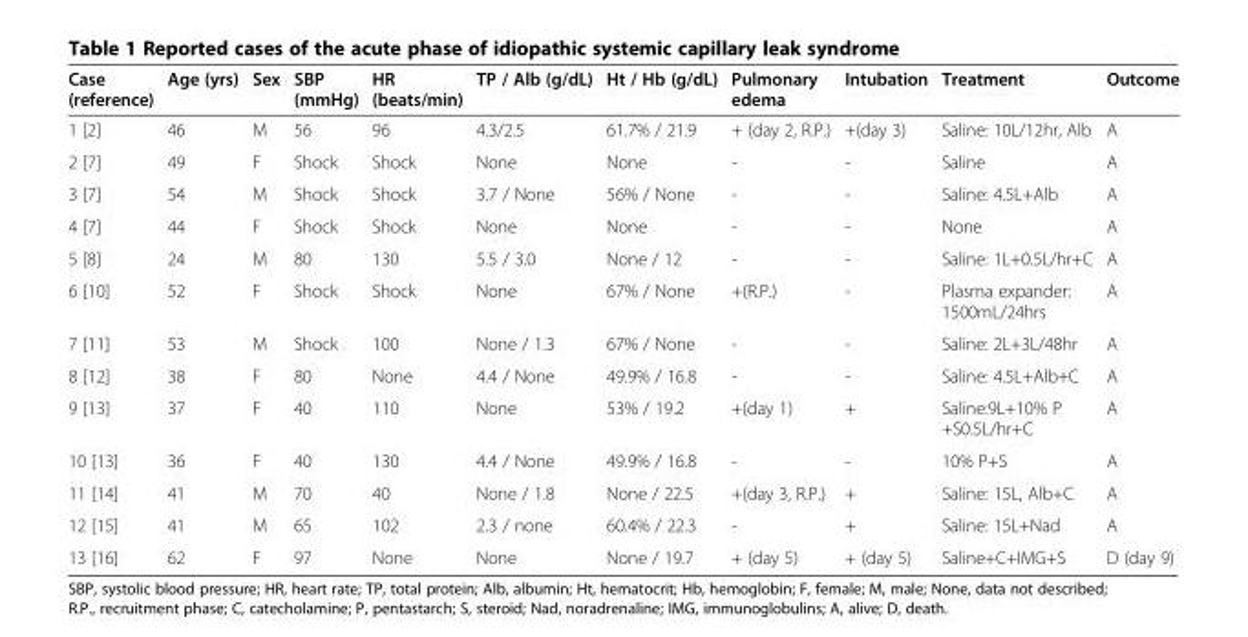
<table><thead><tr><td>Case (reference)</td><td>Age (yrs)</td><td>Sex</td><td>SBP (mmHg)</td><td>HR (beats/min)</td><td>TP / Alb (g/dL)</td><td>Ht / Hb (g/dL)</td><td>Pulmonary edema</td><td>Intubation</td><td>Treatment</td><td>Outcome</td></tr></thead><tbody><tr><td>1 [2]</td><td>46</td><td>M</td><td>56</td><td>96</td><td>4.3/2.5</td><td>61.7% / 21.9</td><td>+ (day 2, R.P.)</td><td>+(day 3)</td><td>Saline: 10L/12hr, Alb</td><td>A</td></tr><tr><td>2 [7]</td><td>49</td><td>F</td><td>Shock</td><td>Shock</td><td>None</td><td>None</td><td>-</td><td>-</td><td>Saline</td><td>A</td></tr><tr><td>3 [7]</td><td>54</td><td>M</td><td>Shock</td><td>Shock</td><td>3.7 / None</td><td>56% / None</td><td>-</td><td>-</td><td>Saline: 4.5L+Alb</td><td>A</td></tr><tr><td>4 [7]</td><td>44</td><td>F</td><td>Shock</td><td>Shock</td><td>None</td><td>None</td><td>-</td><td>-</td><td>None</td><td>A</td></tr><tr><td>5 [8]</td><td>24</td><td>M</td><td>80</td><td>130</td><td>5.5 / 3.0</td><td>None / 12</td><td>-</td><td>-</td><td>Saline: 1L+0.5L/hr+C</td><td>A</td></tr><tr><td>6 [10]</td><td>52</td><td>F</td><td>Shock</td><td>Shock</td><td>None</td><td>67% / None</td><td>+(R.P.)</td><td>-</td><td>Plasma expander: 1500mL/24hrs</td><td>A</td></tr><tr><td>7 [11]</td><td>53</td><td>M</td><td>Shock</td><td>100</td><td>None / 1.3</td><td>67% / None</td><td>-</td><td>-</td><td>Saline: 2L+3L/48hr</td><td>A</td></tr><tr><td>8 [12]</td><td>38</td><td>F</td><td>80</td><td>None</td><td>4.4 / None</td><td>49.9% / 16.8</td><td>-</td><td>-</td><td>Saline: 4.5L+Alb+C</td><td>A</td></tr><tr><td>9 [13]</td><td>37</td><td>F</td><td>40</td><td>110</td><td>None</td><td>53% / 19.2</td><td>+(day 1)</td><td>+</td><td>Saline:9L+10% P +S0.5L/hr+C</td><td>A</td></tr><tr><td>10 [13]</td><td>36</td><td>F</td><td>40</td><td>130</td><td>4.4 / None</td><td>49.9% / 16.8</td><td>-</td><td>-</td><td>10% P+S</td><td>A</td></tr><tr><td>11 [14]</td><td>41</td><td>M</td><td>70</td><td>40</td><td>None / 1.8</td><td>None / 22.5</td><td>+(day 3, R.P.)</td><td>+</td><td>Saline: 15L, Alb+C</td><td>A</td></tr><tr><td>12 [15]</td><td>41</td><td>M</td><td>65</td><td>102</td><td>2.3 / none</td><td>60.4% / 22.3</td><td>-</td><td>+</td><td>Saline: 15L+Nad</td><td>A</td></tr><tr><td>13 [16]</td><td>62</td><td>F</td><td>97</td><td>None</td><td>None</td><td>None / 19.7</td><td>+ (day 5)</td><td>+ (day 5)</td><td>Saline+C+IMG+S</td><td>D (day 9)</td></tr></tbody></table>